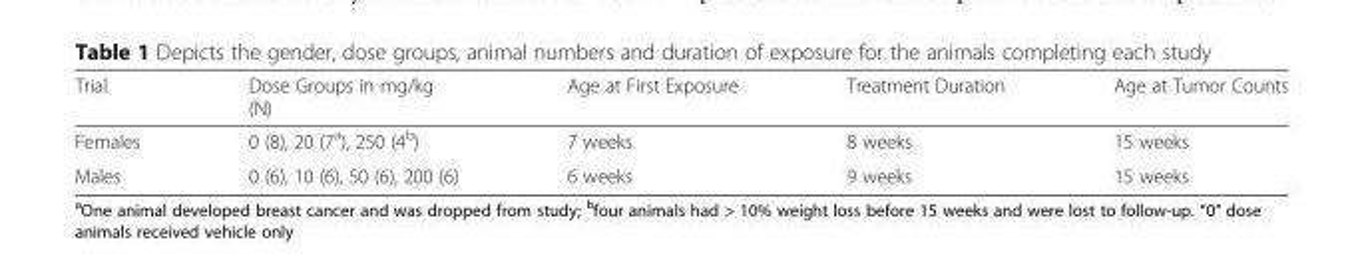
<table><thead><tr><td>Trial</td><td>Dose Groups in mg/kg (N)</td><td>Age at First Exposure</td><td>Treatment Duration</td><td>Age at Tumor Counts</td></tr></thead><tbody><tr><td>Females</td><td>0 (8), 20 (7<sup>a</sup>), 250 (4<sup>b</sup>)</td><td>7 weeks</td><td>8 weeks</td><td>15 weeks</td></tr><tr><td>Males</td><td>0 (6), 10 (6), 50 (6), 200 (6)</td><td>6 weeks</td><td>9 weeks</td><td>15 weeks</td></tr></tbody></table>